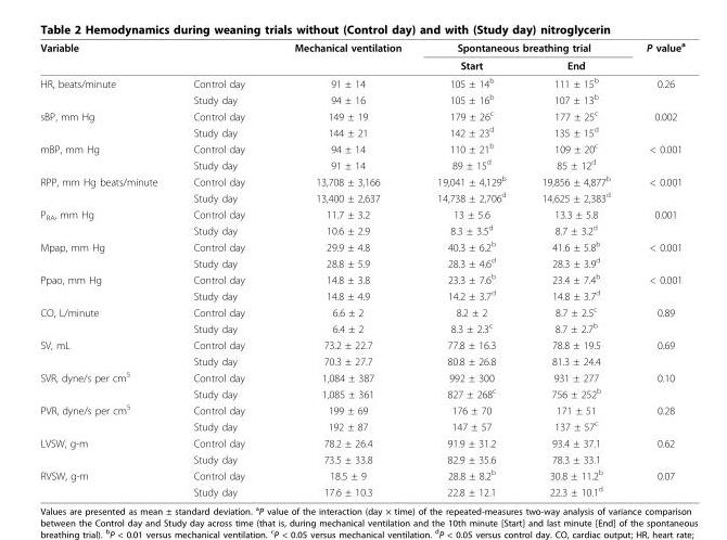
<table><thead><tr><td rowspan="2">Variable</td><td rowspan="2"></td><td rowspan="2">Mechanical ventilation</td><td colspan="2">Spontaneous breathing trial</td><td rowspan="2">P value<sup>a</sup></td></tr><tr><td>Start</td><td>End</td></tr></thead><tbody><tr><td rowspan="2">HR, beats/minute</td><td>Control day</td><td>91 ± 14</td><td>105 ± 14<sup>b</sup></td><td>111 ± 15<sup>b</sup></td><td>0.26</td></tr><tr><td>Study day</td><td>94 ± 16</td><td>105 ± 16<sup>b</sup></td><td>107 ± 13<sup>b</sup></td><td></td></tr><tr><td rowspan="2">sBP, mm Hg</td><td>Control day</td><td>149 ± 19</td><td>179 ± 26<sup>c</sup></td><td>177 ± 25<sup>c</sup></td><td>0.002</td></tr><tr><td>Study day</td><td>144 ± 21</td><td>142 ± 23<sup>d</sup></td><td>135 ± 15<sup>d</sup></td><td></td></tr><tr><td rowspan="2">mBP, mm Hg</td><td>Control day</td><td>94 ± 14</td><td>110 ± 21<sup>b</sup></td><td>109 ± 20<sup>c</sup></td><td>&lt; 0.001</td></tr><tr><td>Study day</td><td>91 ± 14</td><td>89 ± 15<sup>d</sup></td><td>85 ± 12<sup>d</sup></td><td></td></tr><tr><td rowspan="2">RPP, mm Hg beats/minute</td><td>Control day</td><td>13,708 ± 3,166</td><td>19,041 ± 4,129<sup>b</sup></td><td>19,856 ± 4,877<sup>b</sup></td><td>&lt; 0.001</td></tr><tr><td>Study day</td><td>13,400 ± 2,637</td><td>14,738 ± 2,706<sup>d</sup></td><td>14,625 ± 2,383<sup>d</sup></td><td></td></tr><tr><td rowspan="2">P<sub>RA</sub>, mm Hg</td><td>Control day</td><td>11.7 ± 3.2</td><td>13 ± 5.6</td><td>13.3 ± 5.8</td><td>0.001</td></tr><tr><td>Study day</td><td>10.6 ± 2.9</td><td>8.3 ± 3.5<sup>d</sup></td><td>8.7 ± 3.2<sup>d</sup></td><td></td></tr><tr><td rowspan="2">Mpap, mm Hg</td><td>Control day</td><td>29.9 ± 4.8</td><td>40.3 ± 6.2<sup>b</sup></td><td>41.6 ± 5.8<sup>b</sup></td><td>&lt; 0.001</td></tr><tr><td>Study day</td><td>28.8 ± 5.9</td><td>28.3 ± 4.6<sup>d</sup></td><td>28.3 ± 3.9<sup>d</sup></td><td></td></tr><tr><td rowspan="2">Ppao, mm Hg</td><td>Control day</td><td>14.8 ± 3.8</td><td>23.3 ± 7.6<sup>b</sup></td><td>23.4 ± 7.4<sup>b</sup></td><td>&lt; 0.001</td></tr><tr><td>Study day</td><td>14.8 ± 4.9</td><td>14.2 ± 3.7<sup>d</sup></td><td>14.8 ± 3.7<sup>d</sup></td><td></td></tr><tr><td rowspan="2">CO, L/minute</td><td>Control day</td><td>6.6 ± 2</td><td>8.2 ± 2</td><td>8.7 ± 2.5<sup>c</sup></td><td>0.89</td></tr><tr><td>Study day</td><td>6.4 ± 2</td><td>8.3 ± 2.3<sup>c</sup></td><td>8.7 ± 2.7<sup>b</sup></td><td></td></tr><tr><td rowspan="2">SV, mL</td><td>Control day</td><td>73.2 ± 22.7</td><td>77.8 ± 16.3</td><td>78.8 ± 19.5</td><td>0.69</td></tr><tr><td>Study day</td><td>70.3 ± 27.7</td><td>80.8 ± 26.8</td><td>81.3 ± 24.4</td><td></td></tr><tr><td rowspan="2">SVR, dyne/s per cm<sup>5</sup></td><td>Control day</td><td>1,084 ± 387</td><td>992 ± 300</td><td>931 ± 277</td><td>0.10</td></tr><tr><td>Study day</td><td>1,085 ± 361</td><td>827 ± 268<sup>c</sup></td><td>756 ± 252<sup>b</sup></td><td></td></tr><tr><td rowspan="2">PVR, dyne/s per cm<sup>5</sup></td><td>Control day</td><td>199 ± 69</td><td>176 ± 70</td><td>171 ± 51</td><td>0.28</td></tr><tr><td>Study day</td><td>192 ± 87</td><td>147 ± 57</td><td>137 ± 57<sup>c</sup></td><td></td></tr><tr><td rowspan="2">LVSW, g-m</td><td>Control day</td><td>78.2 ± 26.4</td><td>91.9 ± 31.2</td><td>93.4 ± 37.1</td><td>0.62</td></tr><tr><td>Study day</td><td>73.5 ± 33.8</td><td>82.9 ± 35.6</td><td>78.3 ± 33.1</td><td></td></tr><tr><td rowspan="2">RVSW, g-m</td><td>Control day</td><td>18.5 ± 9</td><td>28.8 ± 8.2<sup>b</sup></td><td>30.8 ± 11.2<sup>b</sup></td><td>0.07</td></tr><tr><td>Study day</td><td>17.6 ± 10.3</td><td>22.8 ± 12.1</td><td>22.3 ± 10.1<sup>d</sup></td><td></td></tr></tbody></table>